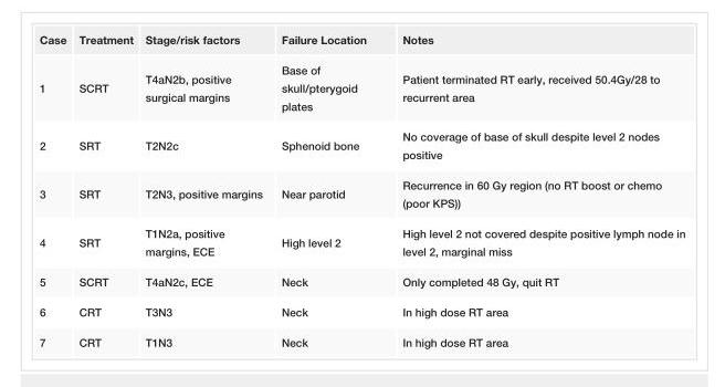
<table><tbody><tr><td>Case</td><td>Treatment</td><td>Stage/risk factors</td><td>Failure Location</td><td>Notes</td></tr><tr><td>1</td><td>SCRT</td><td>T4aN2b, positive surgical margins</td><td>Base of skull/pterygoid plates</td><td>Patient terminated RT early, received 50.4Gy/28 to recurrent area</td></tr><tr><td>2</td><td>SRT</td><td>T2N2c</td><td>Sphenoid bone</td><td>No coverage of base of skull despite level 2 nodes positive</td></tr><tr><td>3</td><td>SRT</td><td>T2N3, positive margins</td><td>Near parotid</td><td>Recurrence in 60 Gy region (no RT boost or chemo (poor KPS))</td></tr><tr><td>4</td><td>SRT</td><td>T1N2a, positive margins, ECE</td><td>High level 2</td><td>High level 2 not covered despite positive lymph node in level 2, marginal miss</td></tr><tr><td>5</td><td>SCRT</td><td>T4aN2c, ECE</td><td>Neck</td><td>Only completed 48 Gy, quit RT</td></tr><tr><td>6</td><td>CRT</td><td>T3N3</td><td>Neck</td><td>In high dose RT area</td></tr><tr><td>7</td><td>CRT</td><td>T1N3</td><td>Neck</td><td>In high dose RT area</td></tr></tbody></table>